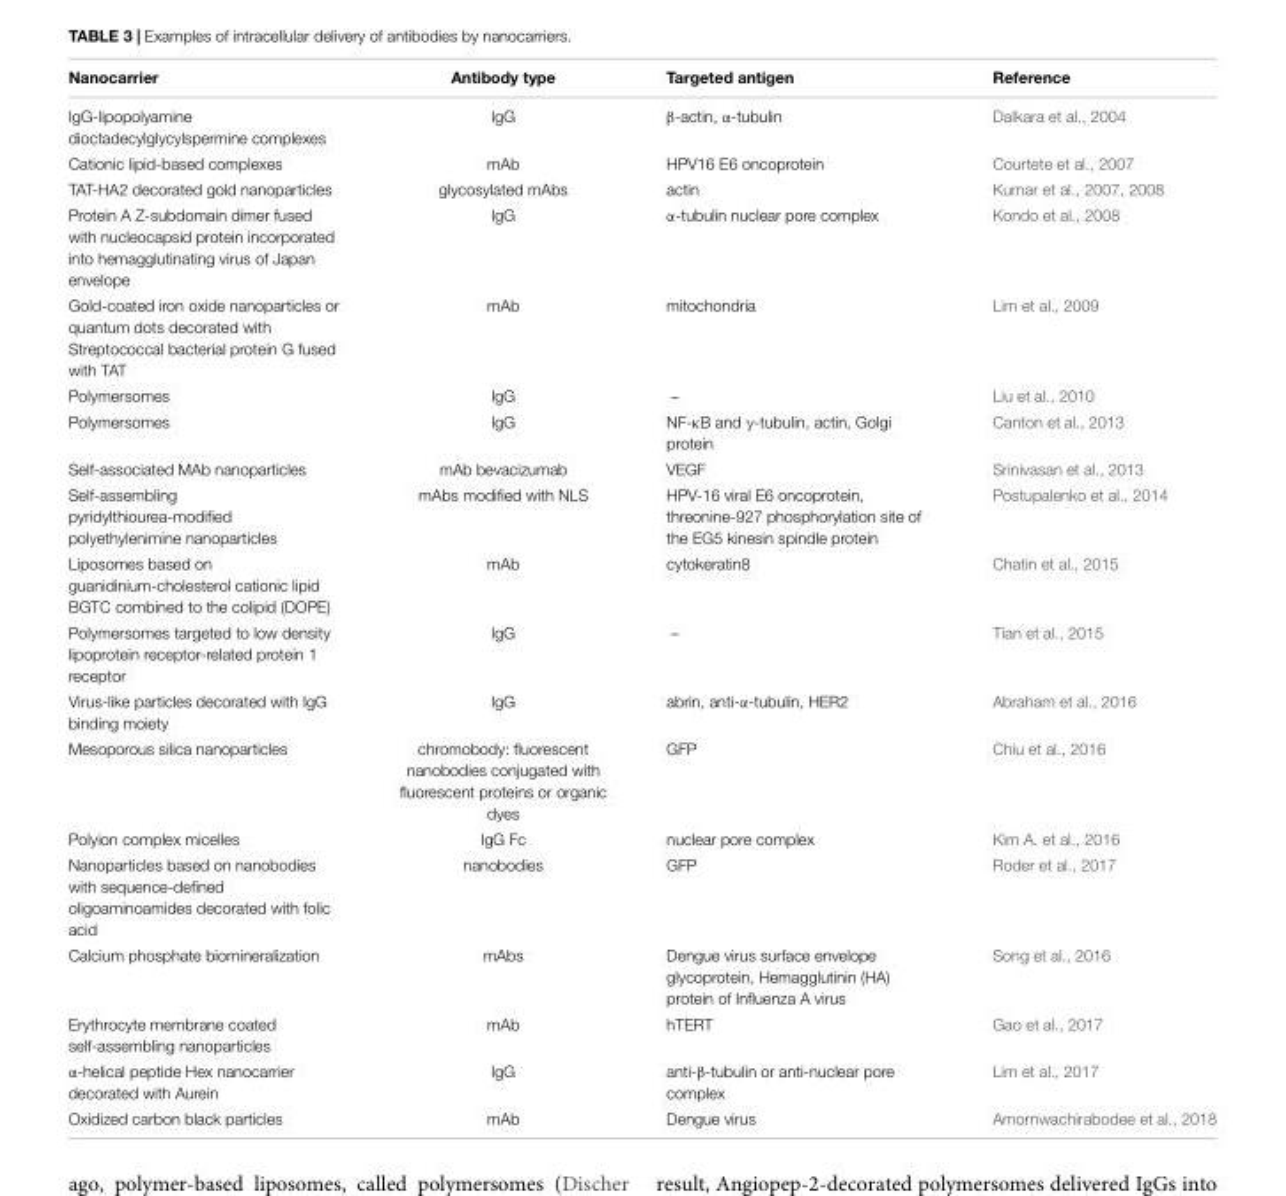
<table><thead><tr><td>Nanocarrier</td><td>Antibody type</td><td>Targeted antigen</td><td>Reference</td></tr></thead><tbody><tr><td>IgG-lipopolyamine dioctadecylglycylspermine complexes</td><td>IgG</td><td>β-actin, α-tubulin</td><td>Dalkara et al., 2004</td></tr><tr><td>Cationic lipid-based complexes</td><td>mAb</td><td>HPV16 E6 oncoprotein</td><td>Courtete et al., 2007</td></tr><tr><td>TAT-HA2 decorated gold nanoparticles</td><td>glycosylated mAbs</td><td>actin</td><td>Kumar et al., 2007, 2008</td></tr><tr><td>Protein A Z-subdomain dimer fused with nucleocapsid protein incorporated into hemagglutinating virus of Japan envelope</td><td>IgG</td><td>α-tubulin nuclear pore complex</td><td>Kondo et al., 2008</td></tr><tr><td>Gold-coated iron oxide nanoparticles or quantum dots decorated with Streptococcal bacterial protein G fused with TAT</td><td>mAb</td><td>mitochondria</td><td>Lim et al., 2009</td></tr><tr><td>Polymersomes</td><td>IgG</td><td>–</td><td>Liu et al., 2010</td></tr><tr><td>Polymersomes</td><td>IgG</td><td>NF-κB and γ-tubulin, actin, Golgi protein</td><td>Canton et al., 2013</td></tr><tr><td>Self-associated MAb nanoparticles</td><td>mAb bevacizumab</td><td>VEGF</td><td>Srinivasan et al., 2013</td></tr><tr><td>Self-assembling pyridylthiourea-modified polyethylenimine nanoparticles</td><td>mAbs modified with NLS</td><td>HPV-16 viral E6 oncoprotein, threonine-927 phosphorylation site of the EG5 kinesin spindle protein</td><td>Postupalenko et al., 2014</td></tr><tr><td>Liposomes based on guanidinium-cholesterol cationic lipid BGTC combined to the colipid (DOPE)</td><td>mAb</td><td>cytokeratin8</td><td>Chatin et al., 2015</td></tr><tr><td>Polymersomes targeted to low density lipoprotein receptor-related protein 1 receptor</td><td>IgG</td><td>–</td><td>Tian et al., 2015</td></tr><tr><td>Virus-like particles decorated with IgG binding moiety</td><td>IgG</td><td>abrin, anti-α-tubulin, HER2</td><td>Abraham et al., 2016</td></tr><tr><td>Mesoporous silica nanoparticles</td><td>chromobody: fluorescent nanobodies conjugated with fluorescent proteins or organic dyes</td><td>GFP</td><td>Chiu et al., 2016</td></tr><tr><td>Polyion complex micelles</td><td>IgG Fc</td><td>nuclear pore complex</td><td>Kim A. et al., 2016</td></tr><tr><td>Nanoparticles based on nanobodies with sequence-defined oligoaminoamides decorated with folic acid</td><td>nanobodies</td><td>GFP</td><td>Roder et al., 2017</td></tr><tr><td>Calcium phosphate biomineralization</td><td>mAbs</td><td>Dengue virus surface envelope glycoprotein, Hemagglutinin (HA) protein of Influenza A virus</td><td>Song et al., 2016</td></tr><tr><td>Erythrocyte membrane coated self-assembling nanoparticles</td><td>mAb</td><td>hTERT</td><td>Gao et al., 2017</td></tr><tr><td>α-helical peptide Hex nanocarrier decorated with Aurein</td><td>IgG</td><td>anti-β-tubulin or anti-nuclear pore complex</td><td>Lim et al., 2017</td></tr><tr><td>Oxidized carbon black particles</td><td>mAb</td><td>Dengue virus</td><td>Amornwachirabodee et al., 2018</td></tr></tbody></table>